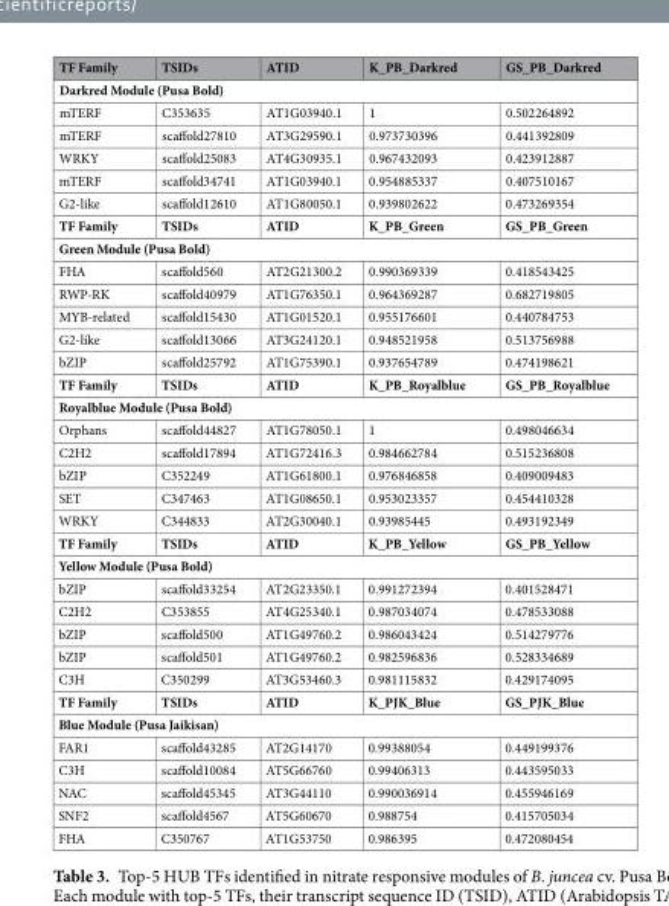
<table><thead><tr><td>TF Family</td><td>TSIDs</td><td>ATID</td><td>K_PB_Darkred</td><td>GS_PB_Darkred</td></tr></thead><tbody><tr><td colspan="5">Darkred Module (Pusa Bold)</td></tr><tr><td>mTERF</td><td>C353635</td><td>AT1G03940.1</td><td>1</td><td>0.502264892</td></tr><tr><td>mTERF</td><td>scaffold27810</td><td>AT3G29590.1</td><td>0.973730396</td><td>0.441392809</td></tr><tr><td>WRKY</td><td>scaffold25083</td><td>AT4G30935.1</td><td>0.967432093</td><td>0.423912887</td></tr><tr><td>mTERF</td><td>scaffold34741</td><td>AT1G03940.1</td><td>0.954885337</td><td>0.407510167</td></tr><tr><td>G2-like</td><td>scaffold12610</td><td>AT1G80050.1</td><td>0.939802622</td><td>0.473269354</td></tr><tr><td>TF Family</td><td>TSIDs</td><td>ATID</td><td>K_PB_Green</td><td>GS_PB_Green</td></tr><tr><td colspan="5">Green Module (Pusa Bold)</td></tr><tr><td>FHA</td><td>scaffold560</td><td>AT2G21300.2</td><td>0.990369339</td><td>0.418543425</td></tr><tr><td>RWP-RK</td><td>scaffold40979</td><td>AT1G76350.1</td><td>0.964369287</td><td>0.682719805</td></tr><tr><td>MYB-related</td><td>scaffold15430</td><td>AT1G01520.1</td><td>0.955176601</td><td>0.440784753</td></tr><tr><td>G2-like</td><td>scaffold13066</td><td>AT3G24120.1</td><td>0.948521958</td><td>0.513756988</td></tr><tr><td>bZIP</td><td>scaffold25792</td><td>AT1G75390.1</td><td>0.937654789</td><td>0.474198621</td></tr><tr><td>TF Family</td><td>TSIDs</td><td>ATID</td><td>K_PB_Royalblue</td><td>GS_PB_Royalblue</td></tr><tr><td colspan="5">Royalblue Module (Pusa Bold)</td></tr><tr><td>Orphans</td><td>scaffold44827</td><td>AT1G78050.1</td><td>1</td><td>0.498046634</td></tr><tr><td>C2H2</td><td>scaffold17894</td><td>AT1G72416.3</td><td>0.984662784</td><td>0.515236808</td></tr><tr><td>bZIP</td><td>C352249</td><td>AT1G61800.1</td><td>0.976846858</td><td>0.409009483</td></tr><tr><td>SET</td><td>C347463</td><td>AT1G08650.1</td><td>0.953023357</td><td>0.454410328</td></tr><tr><td>WRKY</td><td>C344833</td><td>AT2G30040.1</td><td>0.93985445</td><td>0.493192349</td></tr><tr><td>TF Family</td><td>TSIDs</td><td>ATID</td><td>K_PB_Yellow</td><td>GS_PB_Yellow</td></tr><tr><td colspan="5">Yellow Module (Pusa Bold)</td></tr><tr><td>bZIP</td><td>scaffold33254</td><td>AT2G23350.1</td><td>0.991272394</td><td>0.401528471</td></tr><tr><td>C2H2</td><td>C353855</td><td>AT4G25340.1</td><td>0.987034074</td><td>0.478533088</td></tr><tr><td>bZIP</td><td>scaffold500</td><td>AT1G49760.2</td><td>0.986043424</td><td>0.514279776</td></tr><tr><td>bZIP</td><td>scaffold501</td><td>AT1G49760.2</td><td>0.982596836</td><td>0.528334689</td></tr><tr><td>C3H</td><td>C350299</td><td>AT3G53460.3</td><td>0.981115832</td><td>0.429174095</td></tr><tr><td>TF Family</td><td>TSIDs</td><td>ATID</td><td>K_PJK_Blue</td><td>GS_PJK_Blue</td></tr><tr><td colspan="5">Blue Module (Pusa Jaikisan)</td></tr><tr><td>FAR1</td><td>scaffold43285</td><td>AT2G14170</td><td>0.99388054</td><td>0.449199376</td></tr><tr><td>C3H</td><td>scaffold10084</td><td>AT5G66760</td><td>0.99406313</td><td>0.443595033</td></tr><tr><td>NAC</td><td>scaffold45345</td><td>AT3G44110</td><td>0.990036914</td><td>0.455946169</td></tr><tr><td>SNF2</td><td>scaffold4567</td><td>AT5G60670</td><td>0.988754</td><td>0.415705034</td></tr><tr><td>FHA</td><td>C350767</td><td>AT1G53750</td><td>0.986395</td><td>0.472080454</td></tr></tbody></table>